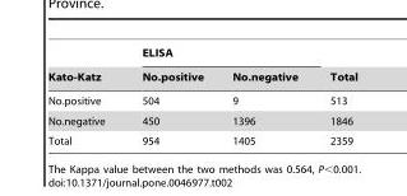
<table><thead><tr><td rowspan="2">Kato-Katz</td><td colspan="2">ELISA</td><td rowspan="2">Total</td></tr><tr><td>No.positive</td><td>No.negative</td></tr></thead><tbody><tr><td>No.positive</td><td>504</td><td>9</td><td>513</td></tr><tr><td>No.negative</td><td>450</td><td>1396</td><td>1846</td></tr><tr><td>Total</td><td>954</td><td>1405</td><td>2359</td></tr></tbody></table>